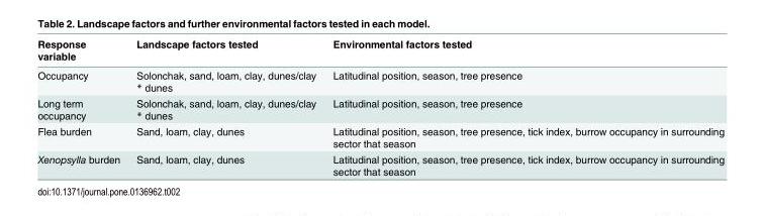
<table><thead><tr><td>Response variable</td><td>Landscape factors tested</td><td>Environmental factors tested</td></tr></thead><tbody><tr><td>Occupancy</td><td>Solonchak, sand, loam, clay, dunes/clay * dunes</td><td>Latitudinal position, season, tree presence</td></tr><tr><td>Long term occupancy</td><td>Solonchak, sand, loam, clay, dunes/clay * dunes</td><td>Latitudinal position, season, tree presence</td></tr><tr><td>Flea burden</td><td>Sand, loam, clay, dunes</td><td>Latitudinal position, season, tree presence, tick index, burrow occupancy in surrounding sector that season</td></tr><tr><td>Xenopsylla burden</td><td>Sand, loam, clay, dunes</td><td>Latitudinal position, season, tree presence, tick index, burrow occupancy in surrounding sector that season</td></tr></tbody></table>